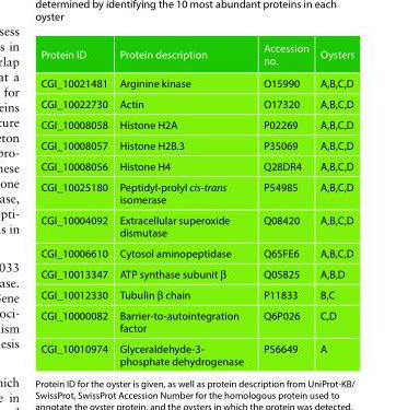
<table><thead><tr><td>Protein ID</td><td>Protein description</td><td>Accession no.</td><td>Oysters</td></tr></thead><tbody><tr><td>CGI_10021481</td><td>Arginine kinase</td><td>O15990</td><td>A,B,C,D</td></tr><tr><td>CGI_10022730</td><td>Actin</td><td>O17320</td><td>A,B,C,D</td></tr><tr><td>CGI_10008058</td><td>Histone H2A</td><td>P02269</td><td>A,B,C,D</td></tr><tr><td>CGI_10008057</td><td>Histone H2B.3</td><td>P35069</td><td>A,B,C,D</td></tr><tr><td>CGI_10008056</td><td>Histone H4</td><td>Q28DR4</td><td>A,B,C,D</td></tr><tr><td>CGI_10025180</td><td>Peptidyl-prolyl cis-trans isomerase</td><td>P54985</td><td>A,B,C,D</td></tr><tr><td>CGI_10004092</td><td>Extracellular superoxide dismutase</td><td>Q08420</td><td>A,B,C,D</td></tr><tr><td>CGI_10006610</td><td>Cytosol aminopeptidase</td><td>Q65FE6</td><td>A,B,C,D</td></tr><tr><td>CGI_10013347</td><td>ATP synthase subunit β</td><td>Q05825</td><td>A,B,D</td></tr><tr><td>CGI_10012330</td><td>Tubulin β chain</td><td>P11833</td><td>B,C</td></tr><tr><td>CGI_10000082</td><td>Barrier-to-autointegration factor</td><td>Q6P026</td><td>C,D</td></tr><tr><td>CGI_10010974</td><td>Glyceraldehyde-3- phosphate dehydrogenase</td><td>P56649</td><td>A</td></tr></tbody></table>